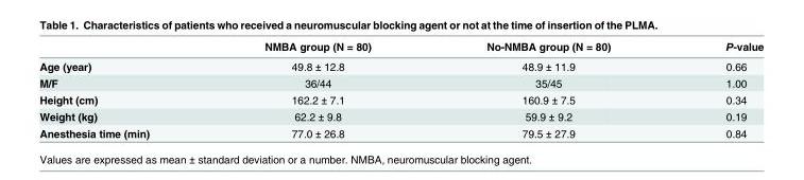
<table><thead><tr><td></td><td>NMBA group (N = 80)</td><td>No-NMBA group (N = 80)</td><td>P-value</td></tr></thead><tbody><tr><td>Age (year)</td><td>49.8 ± 12.8</td><td>48.9 ± 11.9</td><td>0.66</td></tr><tr><td>M/F</td><td>36/44</td><td>35/45</td><td>1.00</td></tr><tr><td>Height (cm)</td><td>162.2 ± 7.1</td><td>160.9 ± 7.5</td><td>0.34</td></tr><tr><td>Weight (kg)</td><td>62.2 ± 9.8</td><td>59.9 ± 9.2</td><td>0.19</td></tr><tr><td>Anesthesia time (min)</td><td>77.0 ± 26.8</td><td>79.5 ± 27.9</td><td>0.84</td></tr></tbody></table>